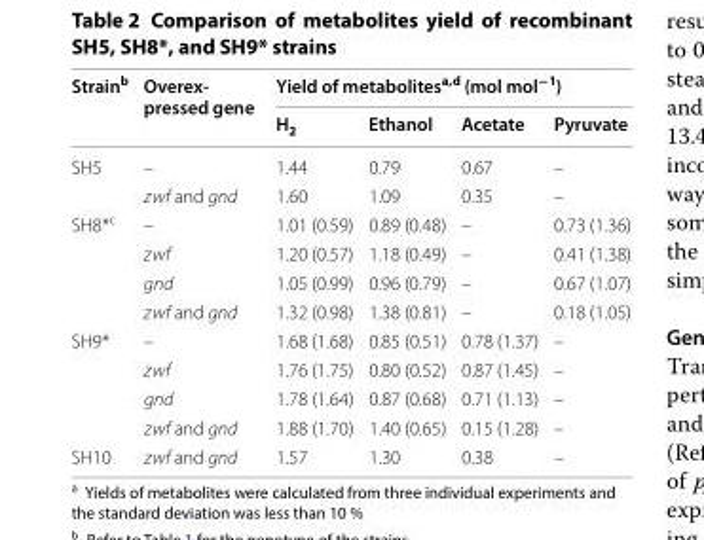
<table><thead><tr><td rowspan="2">Strain<sup>b</sup></td><td rowspan="2">Overex‑ pressed gene</td><td colspan="4">Yield of metabolites<sup>a,d</sup> (mol mol<sup>−1</sup>)</td></tr><tr><td>H<sub>2</sub></td><td>Ethanol</td><td>Acetate</td><td>Pyruvate</td></tr></thead><tbody><tr><td rowspan="2">SH5</td><td>–</td><td>1.44</td><td>0.79</td><td>0.67</td><td>–</td></tr><tr><td>zwf and gnd</td><td>1.60</td><td>1.09</td><td>0.35</td><td>–</td></tr><tr><td rowspan="4">SH8*<sup>c</sup></td><td>–</td><td>1.01 (0.59)</td><td>0.89 (0.48)</td><td>–</td><td>0.73 (1.36)</td></tr><tr><td>zwf</td><td>1.20 (0.57)</td><td>1.18 (0.49)</td><td>–</td><td>0.41 (1.38)</td></tr><tr><td>gnd</td><td>1.05 (0.99)</td><td>0.96 (0.79)</td><td>–</td><td>0.67 (1.07)</td></tr><tr><td>zwf and gnd</td><td>1.32 (0.98)</td><td>1.38 (0.81)</td><td>–</td><td>0.18 (1.05)</td></tr><tr><td rowspan="4">SH9*</td><td>–</td><td>1.68 (1.68)</td><td>0.85 (0.51)</td><td>0.78 (1.37)</td><td>–</td></tr><tr><td>zwf</td><td>1.76 (1.75)</td><td>0.80 (0.52)</td><td>0.87 (1.45)</td><td>–</td></tr><tr><td>gnd</td><td>1.78 (1.64)</td><td>0.87 (0.68)</td><td>0.71 (1.13)</td><td>–</td></tr><tr><td>zwf and gnd</td><td>1.88 (1.70)</td><td>1.40 (0.65)</td><td>0.15 (1.28)</td><td>–</td></tr><tr><td>SH10</td><td>zwf and gnd</td><td>1.57</td><td>1.30</td><td>0.38</td><td>–</td></tr></tbody></table>